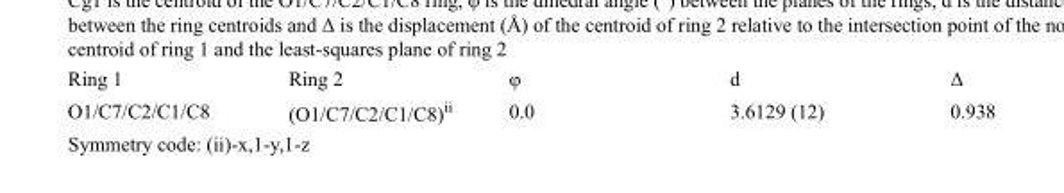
<table><tbody><tr><td>Ring 1</td><td>Ring 2</td><td>φ</td><td>d</td><td>Δ</td></tr><tr><td>O1/C7/C2/C1/C8</td><td>(O1/C7/C2/C1/C8)<sup>ii</sup></td><td>0.0</td><td>3.6129 (12)</td><td>0.938</td></tr></tbody></table>